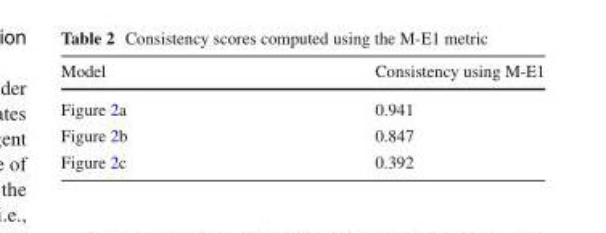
<table><thead><tr><td>Model</td><td>Consistency using M-E1</td></tr></thead><tbody><tr><td>Figure 2a</td><td>0.941</td></tr><tr><td>Figure 2b</td><td>0.847</td></tr><tr><td>Figure 2c</td><td>0.392</td></tr></tbody></table>